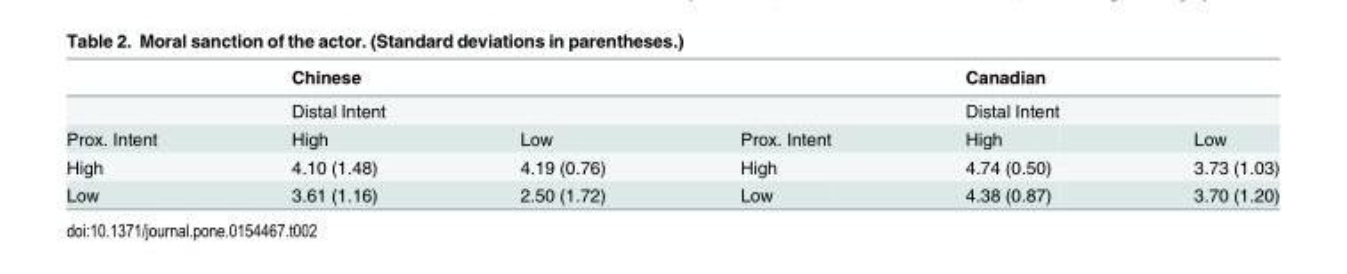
<table><thead><tr><td></td><td>Chinese</td><td></td><td></td><td>Canadian</td><td></td></tr></thead><tbody><tr><td></td><td>Distal Intent</td><td></td><td></td><td>Distal Intent</td><td></td></tr><tr><td>Prox. Intent</td><td>High</td><td>Low</td><td>Prox. Intent</td><td>High</td><td>Low</td></tr><tr><td>High</td><td>4.10 (1.48)</td><td>4.19 (0.76)</td><td>High</td><td>4.74 (0.50)</td><td>3.73 (1.03)</td></tr><tr><td>Low</td><td>3.61 (1.16)</td><td>2.50 (1.72)</td><td>Low</td><td>4.38 (0.87)</td><td>3.70 (1.20)</td></tr></tbody></table>